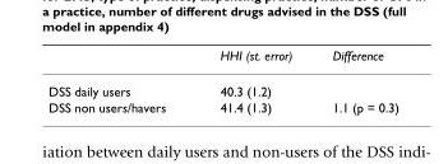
<table><thead><tr><td></td><td>HHI (st. error)</td><td>Difference</td></tr></thead><tbody><tr><td>DSS daily users</td><td>40.3 (1.2)</td><td></td></tr><tr><td>DSS non users/havers</td><td>41.4 (1.3)</td><td>1.1 (p = 0.3)</td></tr></tbody></table>